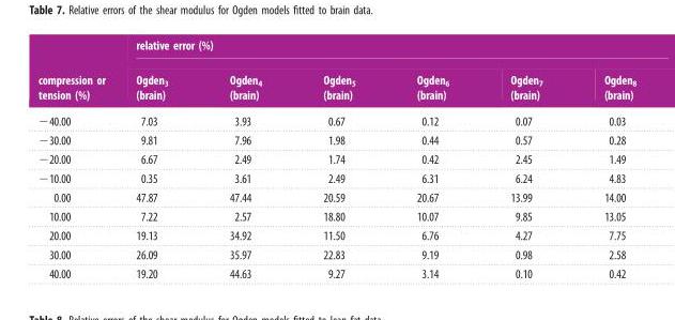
<table><thead><tr><td rowspan="2">compression or tension (%)</td><td colspan="6">relative error (%)</td></tr><tr><td>Ogden<sub>3</sub> (brain)</td><td>Ogden<sub>4</sub> (brain)</td><td>Ogden<sub>5</sub> (brain)</td><td>Ogden<sub>6</sub> (brain)</td><td>Ogden<sub>7</sub> (brain)</td><td>Ogden<sub>8</sub> (brain)</td></tr></thead><tbody><tr><td>−40.00</td><td>7.03</td><td>3.93</td><td>0.67</td><td>0.12</td><td>0.07</td><td>0.03</td></tr><tr><td>−30.00</td><td>9.81</td><td>7.96</td><td>1.98</td><td>0.44</td><td>0.57</td><td>0.28</td></tr><tr><td>−20.00</td><td>6.67</td><td>2.49</td><td>1.74</td><td>0.42</td><td>2.45</td><td>1.49</td></tr><tr><td>−10.00</td><td>0.35</td><td>3.61</td><td>2.49</td><td>6.31</td><td>6.24</td><td>4.83</td></tr><tr><td>0.00</td><td>47.87</td><td>47.44</td><td>20.59</td><td>20.67</td><td>13.99</td><td>14.00</td></tr><tr><td>10.00</td><td>7.22</td><td>2.57</td><td>18.80</td><td>10.07</td><td>9.85</td><td>13.05</td></tr><tr><td>20.00</td><td>19.13</td><td>34.92</td><td>11.50</td><td>6.76</td><td>4.27</td><td>7.75</td></tr><tr><td>30.00</td><td>26.09</td><td>35.97</td><td>22.83</td><td>9.19</td><td>0.98</td><td>2.58</td></tr><tr><td>40.00</td><td>19.20</td><td>44.63</td><td>9.27</td><td>3.14</td><td>0.10</td><td>0.42</td></tr></tbody></table>